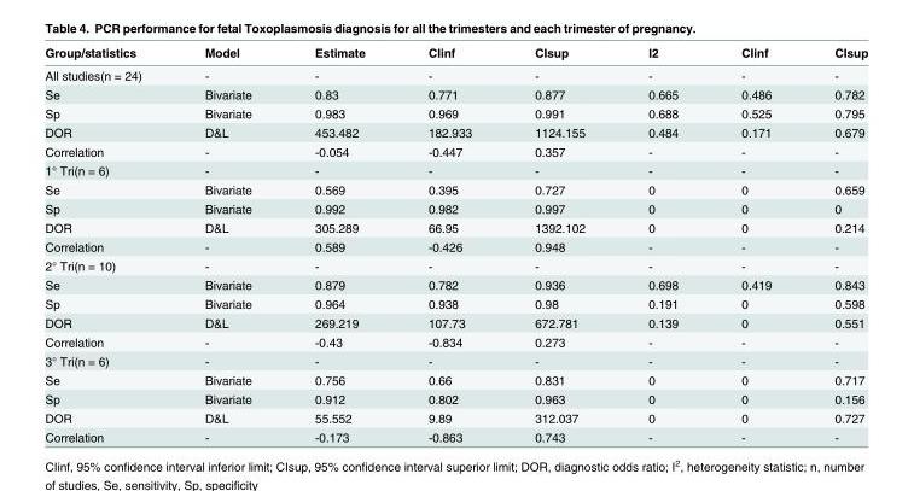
<table><thead><tr><td>Group/statistics</td><td>Model</td><td>Estimate</td><td>CIinf</td><td>CIsup</td><td>I2</td><td>CIinf</td><td>CIsup</td></tr></thead><tbody><tr><td>All studies(n = 24)</td><td>-</td><td>-</td><td>-</td><td>-</td><td>-</td><td>-</td><td>-</td></tr><tr><td>Se</td><td>Bivariate</td><td>0.83</td><td>0.771</td><td>0.877</td><td>0.665</td><td>0.486</td><td>0.782</td></tr><tr><td>Sp</td><td>Bivariate</td><td>0.983</td><td>0.969</td><td>0.991</td><td>0.688</td><td>0.525</td><td>0.795</td></tr><tr><td>DOR</td><td>D&amp;L</td><td>453.482</td><td>182.933</td><td>1124.155</td><td>0.484</td><td>0.171</td><td>0.679</td></tr><tr><td>Correlation</td><td>-</td><td>-0.054</td><td>-0.447</td><td>0.357</td><td>-</td><td>-</td><td>-</td></tr><tr><td>1° Tri(n = 6)</td><td>-</td><td>-</td><td>-</td><td>-</td><td>-</td><td>-</td><td>-</td></tr><tr><td>Se</td><td>Bivariate</td><td>0.569</td><td>0.395</td><td>0.727</td><td>0</td><td>0</td><td>0.659</td></tr><tr><td>Sp</td><td>Bivariate</td><td>0.992</td><td>0.982</td><td>0.997</td><td>0</td><td>0</td><td>0</td></tr><tr><td>DOR</td><td>D&amp;L</td><td>305.289</td><td>66.95</td><td>1392.102</td><td>0</td><td>0</td><td>0.214</td></tr><tr><td>Correlation</td><td>-</td><td>0.589</td><td>-0.426</td><td>0.948</td><td>-</td><td>-</td><td>-</td></tr><tr><td>2° Tri(n = 10)</td><td>-</td><td>-</td><td>-</td><td>-</td><td>-</td><td>-</td><td>-</td></tr><tr><td>Se</td><td>Bivariate</td><td>0.879</td><td>0.782</td><td>0.936</td><td>0.698</td><td>0.419</td><td>0.843</td></tr><tr><td>Sp</td><td>Bivariate</td><td>0.964</td><td>0.938</td><td>0.98</td><td>0.191</td><td>0</td><td>0.598</td></tr><tr><td>DOR</td><td>D&amp;L</td><td>269.219</td><td>107.73</td><td>672.781</td><td>0.139</td><td>0</td><td>0.551</td></tr><tr><td>Correlation</td><td>-</td><td>-0.43</td><td>-0.834</td><td>0.273</td><td>-</td><td>-</td><td>-</td></tr><tr><td>3° Tri(n = 6)</td><td>-</td><td>-</td><td>-</td><td>-</td><td>-</td><td>-</td><td>-</td></tr><tr><td>Se</td><td>Bivariate</td><td>0.756</td><td>0.66</td><td>0.831</td><td>0</td><td>0</td><td>0.717</td></tr><tr><td>Sp</td><td>Bivariate</td><td>0.912</td><td>0.802</td><td>0.963</td><td>0</td><td>0</td><td>0.156</td></tr><tr><td>DOR</td><td>D&amp;L</td><td>55.552</td><td>9.89</td><td>312.037</td><td>0</td><td>0</td><td>0.727</td></tr><tr><td>Correlation</td><td>-</td><td>-0.173</td><td>-0.863</td><td>0.743</td><td>-</td><td>-</td><td>-</td></tr></tbody></table>